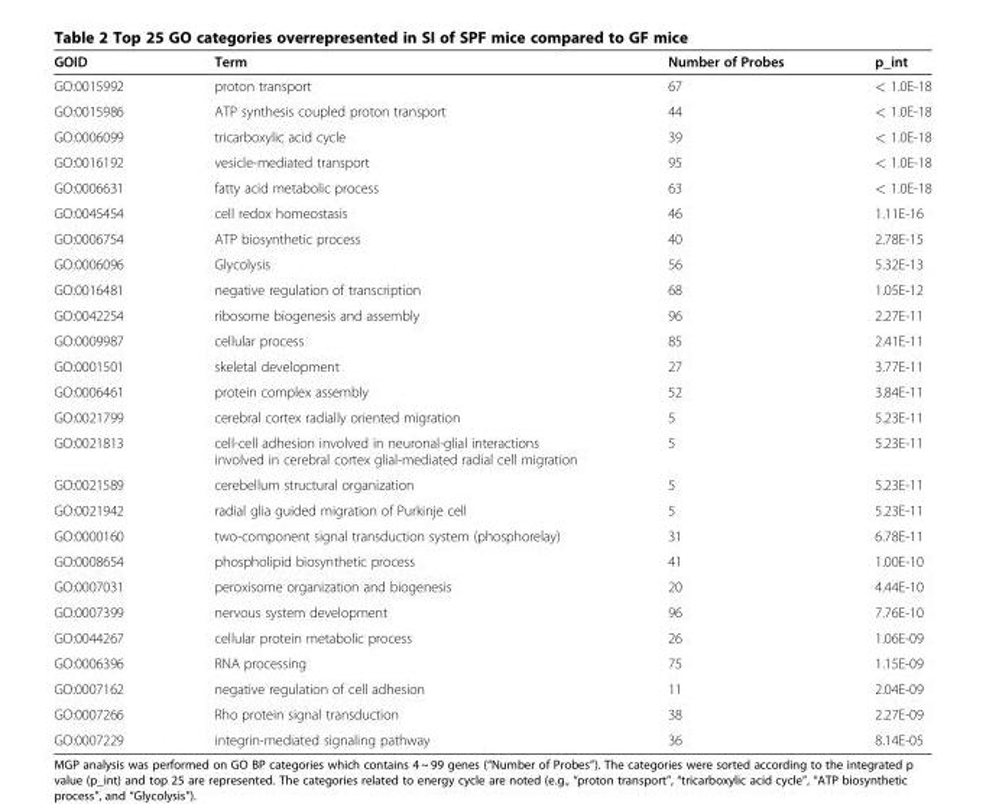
<table><thead><tr><td>GOID</td><td>Term</td><td>Number of Probes</td><td>p_int</td></tr></thead><tbody><tr><td>GO:0015992</td><td>proton transport</td><td>67</td><td>&lt; 1.0E-18</td></tr><tr><td>GO:0015986</td><td>ATP synthesis coupled proton transport</td><td>44</td><td>&lt; 1.0E-18</td></tr><tr><td>GO:0006099</td><td>tricarboxylic acid cycle</td><td>39</td><td>&lt; 1.0E-18</td></tr><tr><td>GO:0016192</td><td>vesicle-mediated transport</td><td>95</td><td>&lt; 1.0E-18</td></tr><tr><td>GO:0006631</td><td>fatty acid metabolic process</td><td>63</td><td>&lt; 1.0E-18</td></tr><tr><td>GO:0045454</td><td>cell redox homeostasis</td><td>46</td><td>1.11E-16</td></tr><tr><td>GO:0006754</td><td>ATP biosynthetic process</td><td>40</td><td>2.78E-15</td></tr><tr><td>GO:0006096</td><td>Glycolysis</td><td>56</td><td>5.32E-13</td></tr><tr><td>GO:0016481</td><td>negative regulation of transcription</td><td>68</td><td>1.05E-12</td></tr><tr><td>GO:0042254</td><td>ribosome biogenesis and assembly</td><td>96</td><td>2.27E-11</td></tr><tr><td>GO:0009987</td><td>cellular process</td><td>85</td><td>2.41E-11</td></tr><tr><td>GO:0001501</td><td>skeletal development</td><td>27</td><td>3.77E-11</td></tr><tr><td>GO:0006461</td><td>protein complex assembly</td><td>52</td><td>3.84E-11</td></tr><tr><td>GO:0021799</td><td>cerebral cortex radially oriented migration</td><td>5</td><td>5.23E-11</td></tr><tr><td>GO:0021813</td><td>cell-cell adhesion involved in neuronal-glial interactions involved in cerebral cortex glial-mediated radial cell migration</td><td>5</td><td>5.23E-11</td></tr><tr><td>GO:0021589</td><td>cerebellum structural organization</td><td>5</td><td>5.23E-11</td></tr><tr><td>GO:0021942</td><td>radial glia guided migration of Purkinje cell</td><td>5</td><td>5.23E-11</td></tr><tr><td>GO:0000160</td><td>two-component signal transduction system (phosphorelay)</td><td>31</td><td>6.78E-11</td></tr><tr><td>GO:0008654</td><td>phospholipid biosynthetic process</td><td>41</td><td>1.00E-10</td></tr><tr><td>GO:0007031</td><td>peroxisome organization and biogenesis</td><td>20</td><td>4.44E-10</td></tr><tr><td>GO:0007399</td><td>nervous system development</td><td>96</td><td>7.76E-10</td></tr><tr><td>GO:0044267</td><td>cellular protein metabolic process</td><td>26</td><td>1.06E-09</td></tr><tr><td>GO:0006396</td><td>RNA processing</td><td>75</td><td>1.15E-09</td></tr><tr><td>GO:0007162</td><td>negative regulation of cell adhesion</td><td>11</td><td>2.04E-09</td></tr><tr><td>GO:0007266</td><td>Rho protein signal transduction</td><td>38</td><td>2.27E-09</td></tr><tr><td>GO:0007229</td><td>integrin-mediated signaling pathway</td><td>36</td><td>8.14E-05</td></tr></tbody></table>